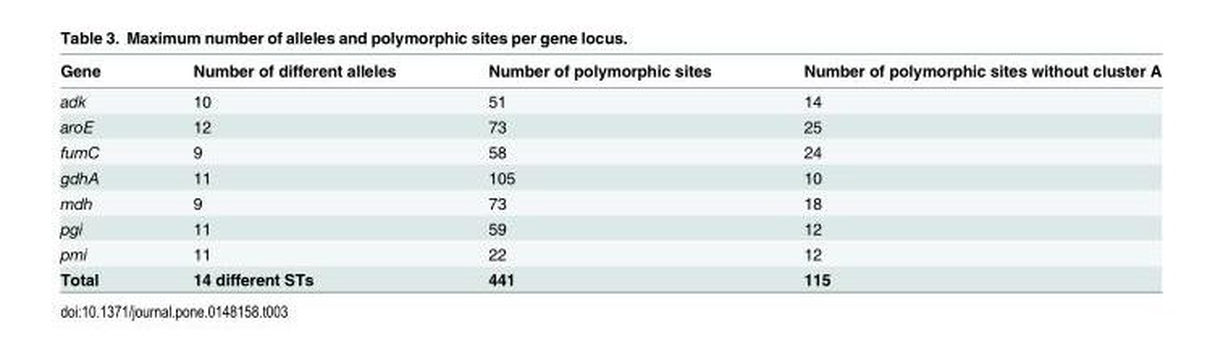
<table><thead><tr><td>Gene</td><td>Number of different alleles</td><td>Number of polymorphic sites</td><td>Number of polymorphic sites without cluster A</td></tr></thead><tbody><tr><td>adk</td><td>10</td><td>51</td><td>14</td></tr><tr><td>aroE</td><td>12</td><td>73</td><td>25</td></tr><tr><td>fumC</td><td>9</td><td>58</td><td>24</td></tr><tr><td>gdhA</td><td>11</td><td>105</td><td>10</td></tr><tr><td>mdh</td><td>9</td><td>73</td><td>18</td></tr><tr><td>pgi</td><td>11</td><td>59</td><td>12</td></tr><tr><td>pmi</td><td>11</td><td>22</td><td>12</td></tr><tr><td>Total</td><td>14 different STs</td><td>441</td><td>115</td></tr></tbody></table>